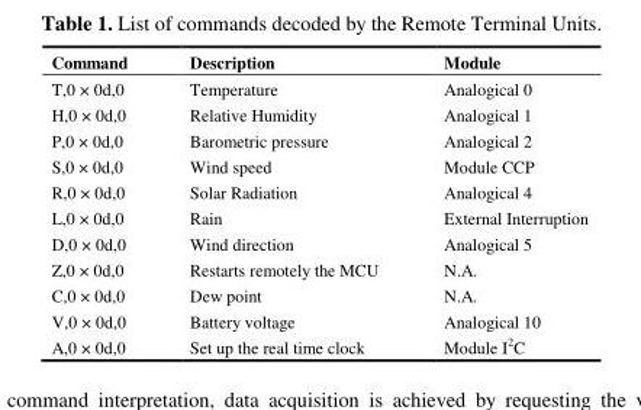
<table><thead><tr><td>Command</td><td>Description</td><td>Module</td></tr></thead><tbody><tr><td>T,0 × 0d,0</td><td>Temperature</td><td>Analogical 0</td></tr><tr><td>H,0 × 0d,0</td><td>Relative Humidity</td><td>Analogical 1</td></tr><tr><td>P,0 × 0d,0</td><td>Barometric pressure</td><td>Analogical 2</td></tr><tr><td>S,0 × 0d,0</td><td>Wind speed</td><td>Module CCP</td></tr><tr><td>R,0 × 0d,0</td><td>Solar Radiation</td><td>Analogical 4</td></tr><tr><td>L,0 × 0d,0</td><td>Rain</td><td>External Interruption</td></tr><tr><td>D,0 × 0d,0</td><td>Wind direction</td><td>Analogical 5</td></tr><tr><td>Z,0 × 0d,0</td><td>Restarts remotely the MCU</td><td>N.A.</td></tr><tr><td>C,0 × 0d,0</td><td>Dew point</td><td>N.A.</td></tr><tr><td>V,0 × 0d,0</td><td>Battery voltage</td><td>Analogical 10</td></tr><tr><td>A,0 × 0d,0</td><td>Set up the real time clock</td><td>Module I<sup>2</sup>C</td></tr></tbody></table>